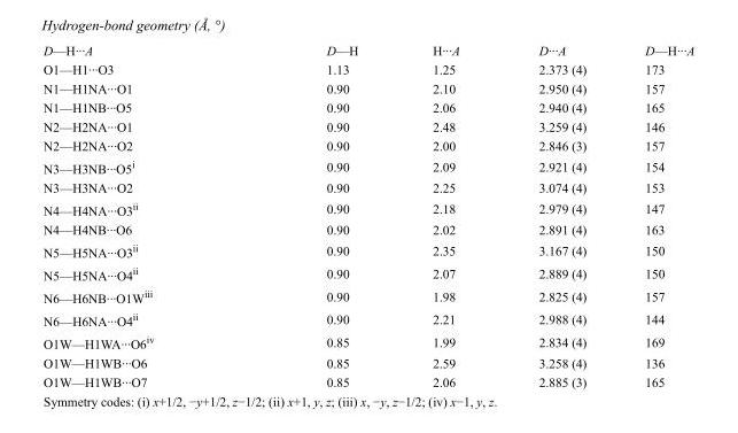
<table><tbody><tr><td>D—H···A</td><td>D—H</td><td>H···A</td><td>D···A</td><td>D—H···A</td></tr><tr><td>O1—H1···O3</td><td>1.13</td><td>1.25</td><td>2.373 (4)</td><td>173</td></tr><tr><td>N1—H1NA···O1</td><td>0.90</td><td>2.10</td><td>2.950 (4)</td><td>157</td></tr><tr><td>N1—H1NB···O5</td><td>0.90</td><td>2.06</td><td>2.940 (4)</td><td>165</td></tr><tr><td>N2—H2NA···O1</td><td>0.90</td><td>2.48</td><td>3.259 (4)</td><td>146</td></tr><tr><td>N2—H2NA···O2</td><td>0.90</td><td>2.00</td><td>2.846 (3)</td><td>157</td></tr><tr><td>N3—H3NB···O5<sup>i</sup></td><td>0.90</td><td>2.09</td><td>2.921 (4)</td><td>154</td></tr><tr><td>N3—H3NA···O2</td><td>0.90</td><td>2.25</td><td>3.074 (4)</td><td>153</td></tr><tr><td>N4—H4NA···O3<sup>ii</sup></td><td>0.90</td><td>2.18</td><td>2.979 (4)</td><td>147</td></tr><tr><td>N4—H4NB···O6</td><td>0.90</td><td>2.02</td><td>2.891 (4)</td><td>163</td></tr><tr><td>N5—H5NA···O3<sup>ii</sup></td><td>0.90</td><td>2.35</td><td>3.167 (4)</td><td>150</td></tr><tr><td>N5—H5NA···O4<sup>ii</sup></td><td>0.90</td><td>2.07</td><td>2.889 (4)</td><td>150</td></tr><tr><td>N6—H6NB···O1W<sup>iii</sup></td><td>0.90</td><td>1.98</td><td>2.825 (4)</td><td>157</td></tr><tr><td>N6—H6NA···O4<sup>ii</sup></td><td>0.90</td><td>2.21</td><td>2.988 (4)</td><td>144</td></tr><tr><td>O1W—H1WA···O6<sup>iv</sup></td><td>0.85</td><td>1.99</td><td>2.834 (4)</td><td>169</td></tr><tr><td>O1W—H1WB···O6</td><td>0.85</td><td>2.59</td><td>3.258 (4)</td><td>136</td></tr><tr><td>O1W—H1WB···O7</td><td>0.85</td><td>2.06</td><td>2.885 (3)</td><td>165</td></tr></tbody></table>